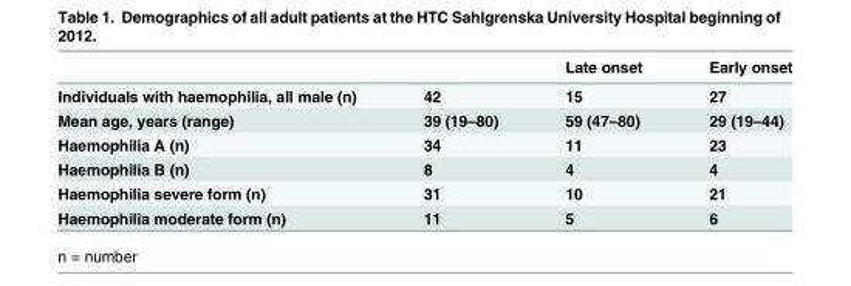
<table><thead><tr><td></td><td></td><td>Late onset</td><td>Early onset</td></tr></thead><tbody><tr><td>Individuals with haemophilia, all male (n)</td><td>42</td><td>15</td><td>27</td></tr><tr><td>Mean age, years (range)</td><td>39 (19–80)</td><td>59 (47–80)</td><td>29 (19–44)</td></tr><tr><td>Haemophilia A (n)</td><td>34</td><td>11</td><td>23</td></tr><tr><td>Haemophilia B (n)</td><td>8</td><td>4</td><td>4</td></tr><tr><td>Haemophilia severe form (n)</td><td>31</td><td>10</td><td>21</td></tr><tr><td>Haemophilia moderate form (n)</td><td>11</td><td>5</td><td>6</td></tr></tbody></table>